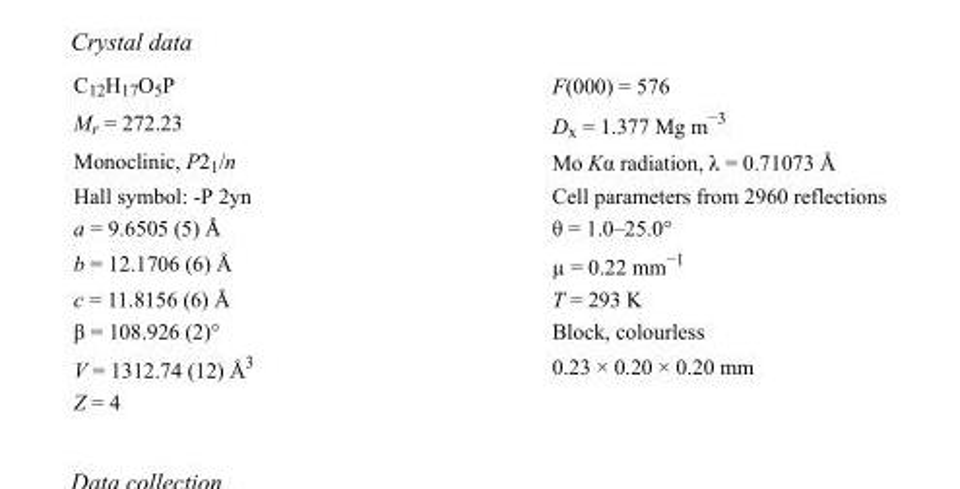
<table><tbody><tr><td>C<sub>12</sub>H<sub>17</sub>O<sub>5</sub>P</td><td>F(000) = 576</td></tr><tr><td>M<sub>r</sub> = 272.23</td><td>D<sub>x</sub> = 1.377 Mg m<sup>−3</sup></td></tr><tr><td>Monoclinic, P2<sub>1</sub>/n</td><td>Mo Kα radiation, λ = 0.71073 Å</td></tr><tr><td>Hall symbol: -P 2yn</td><td>Cell parameters from 2960 reflections</td></tr><tr><td>a = 9.6505 (5) Å</td><td>θ = 1.0–25.0°</td></tr><tr><td>b = 12.1706 (6) Å</td><td>µ = 0.22 mm<sup>−1</sup></td></tr><tr><td>c = 11.8156 (6) Å</td><td>T = 293 K</td></tr><tr><td>β = 108.926 (2)°</td><td>Block, colourless</td></tr><tr><td>V = 1312.74 (12) Å<sup>3</sup></td><td>0.23 × 0.20 × 0.20 mm</td></tr><tr><td>Z = 4</td><td></td></tr></tbody></table>